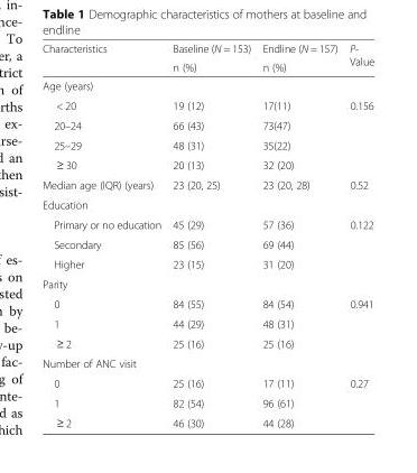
<table><thead><tr><td rowspan="2">Characteristics</td><td rowspan="2">Baseline (N = 153) n (%)</td><td rowspan="2">Endline (N = 157) n (%)</td><td rowspan="2">P- Value</td></tr><tr></tr></thead><tbody><tr><td colspan="4">Age (years)</td></tr><tr><td>&lt; 20</td><td>19 (12)</td><td>17(11)</td><td>0.156</td></tr><tr><td>20–24</td><td>66 (43)</td><td>73(47)</td><td></td></tr><tr><td>25–29</td><td>48 (31)</td><td>35(22)</td><td></td></tr><tr><td>≥ 30</td><td>20 (13)</td><td>32 (20)</td><td></td></tr><tr><td>Median age (IQR) (years)</td><td>23 (20, 25)</td><td>23 (20, 28)</td><td>0.52</td></tr><tr><td colspan="4">Education</td></tr><tr><td>Primary or no education</td><td>45 (29)</td><td>57 (36)</td><td>0.122</td></tr><tr><td>Secondary</td><td>85 (56)</td><td>69 (44)</td><td></td></tr><tr><td>Higher</td><td>23 (15)</td><td>31 (20)</td><td></td></tr><tr><td colspan="4">Parity</td></tr><tr><td>0</td><td>84 (55)</td><td>84 (54)</td><td>0.941</td></tr><tr><td>1</td><td>44 (29)</td><td>48 (31)</td><td></td></tr><tr><td>≥ 2</td><td>25 (16)</td><td>25 (16)</td><td></td></tr><tr><td colspan="4">Number of ANC visit</td></tr><tr><td>0</td><td>25 (16)</td><td>17 (11)</td><td>0.27</td></tr><tr><td>1</td><td>82 (54)</td><td>96 (61)</td><td></td></tr><tr><td>≥ 2</td><td>46 (30)</td><td>44 (28)</td><td></td></tr></tbody></table>